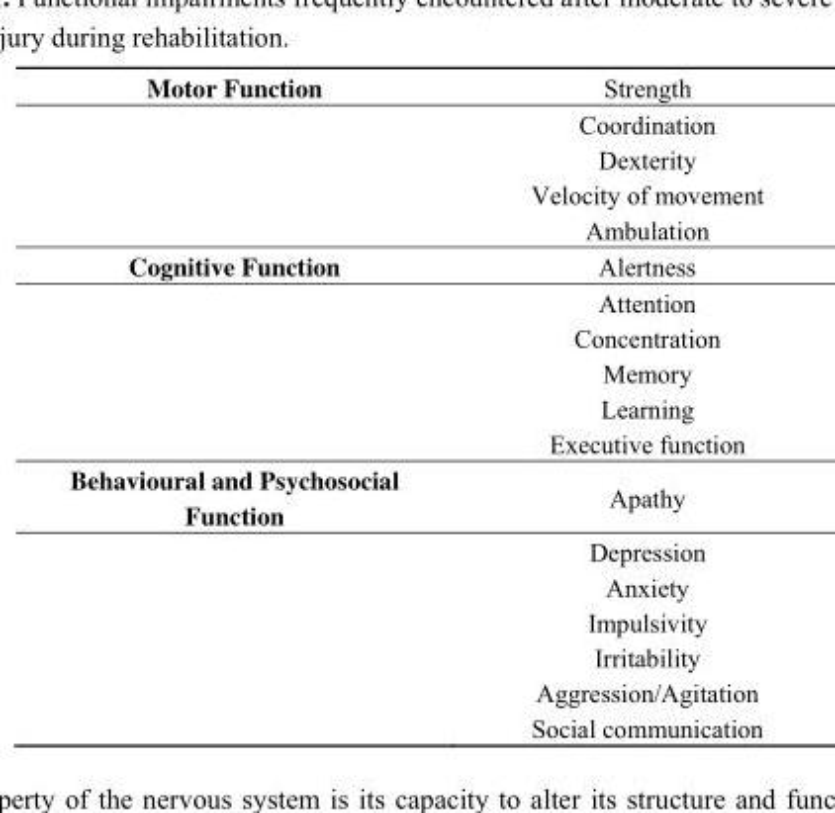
<table><tbody><tr><td rowspan="5">Motor Function</td><td>Strength</td></tr><tr><td>Coordination</td></tr><tr><td>Dexterity</td></tr><tr><td>Velocity of movement</td></tr><tr><td>Ambulation</td></tr><tr><td rowspan="6">Cognitive Function</td><td>Alertness</td></tr><tr><td>Attention</td></tr><tr><td>Concentration</td></tr><tr><td>Memory</td></tr><tr><td>Learning</td></tr><tr><td>Executive function</td></tr><tr><td rowspan="7">Behavioural and Psychosocial Function</td><td>Apathy</td></tr><tr><td>Depression</td></tr><tr><td>Anxiety</td></tr><tr><td>Impulsivity</td></tr><tr><td>Irritability</td></tr><tr><td>Aggression/Agitation</td></tr><tr><td>Social communication</td></tr></tbody></table>